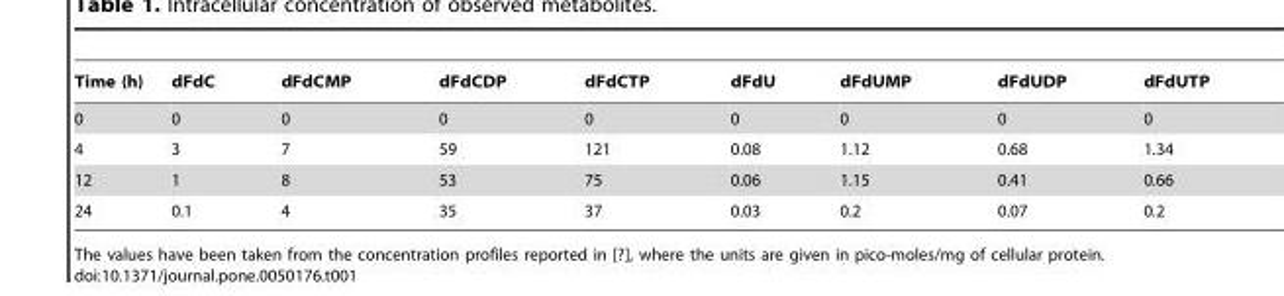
<table><thead><tr><td>Time (h)</td><td>dFdC</td><td>dFdCMP</td><td>dFdCDP</td><td>dFdCTP</td><td>dFdU</td><td>dFdUMP</td><td>dFdUDP</td><td>dFdUTP</td></tr></thead><tbody><tr><td>0</td><td>0</td><td>0</td><td>0</td><td>0</td><td>0</td><td>0</td><td>0</td><td>0</td></tr><tr><td>4</td><td>3</td><td>7</td><td>59</td><td>121</td><td>0.08</td><td>1.12</td><td>0.68</td><td>1.34</td></tr><tr><td>12</td><td>1</td><td>8</td><td>53</td><td>75</td><td>0.06</td><td>1.15</td><td>0.41</td><td>0.66</td></tr><tr><td>24</td><td>0.1</td><td>4</td><td>35</td><td>37</td><td>0.03</td><td>0.2</td><td>0.07</td><td>0.2</td></tr></tbody></table>